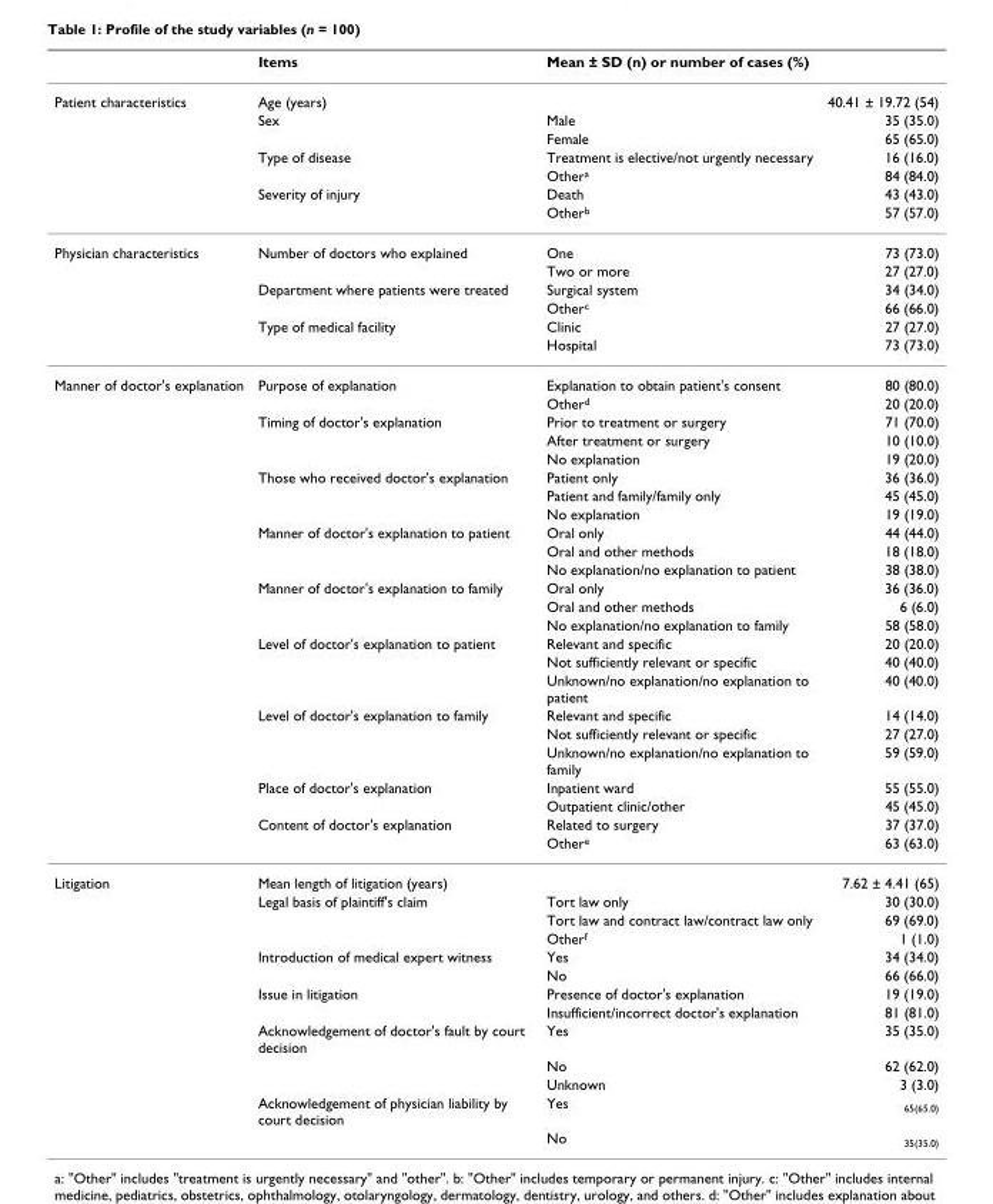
<table><thead><tr><td></td><td>Items</td><td>Mean ± SD (n) or number of cases (%)</td><td></td></tr></thead><tbody><tr><td rowspan="7">Patient characteristics</td><td>Age (years)</td><td></td><td>40.41 ± 19.72 (54)</td></tr><tr><td>Sex</td><td>Male</td><td>35 (35.0)</td></tr><tr><td></td><td>Female</td><td>65 (65.0)</td></tr><tr><td>Type of disease</td><td>Treatment is elective/not urgently necessary</td><td>16 (16.0)</td></tr><tr><td></td><td>Other<sup>a</sup></td><td>84 (84.0)</td></tr><tr><td>Severity of injury</td><td>Death</td><td>43 (43.0)</td></tr><tr><td></td><td>Other<sup>b</sup></td><td>57 (57.0)</td></tr><tr><td rowspan="6">Physician characteristics</td><td>Number of doctors who explained</td><td>One</td><td>73 (73.0)</td></tr><tr><td></td><td>Two or more</td><td>27 (27.0)</td></tr><tr><td>Department where patients were treated</td><td>Surgical system</td><td>34 (34.0)</td></tr><tr><td></td><td>Other<sup>c</sup></td><td>66 (66.0)</td></tr><tr><td>Type of medical facility</td><td>Clinic</td><td>27 (27.0)</td></tr><tr><td></td><td>Hospital</td><td>73 (73.0)</td></tr><tr><td rowspan="24">Manner of doctor&#x27;s explanation</td><td>Purpose of explanation</td><td>Explanation to obtain patient&#x27;s consent</td><td>80 (80.0)</td></tr><tr><td></td><td>Other<sup>d</sup></td><td>20 (20.0)</td></tr><tr><td>Timing of doctor&#x27;s explanation</td><td>Prior to treatment or surgery</td><td>71 (70.0)</td></tr><tr><td></td><td>After treatment or surgery</td><td>10 (10.0)</td></tr><tr><td></td><td>No explanation</td><td>19 (20.0)</td></tr><tr><td>Those who received doctor&#x27;s explanation</td><td>Patient only</td><td>36 (36.0)</td></tr><tr><td></td><td>Patient and family/family only</td><td>45 (45.0)</td></tr><tr><td></td><td>No explanation</td><td>19 (19.0)</td></tr><tr><td>Manner of doctor&#x27;s explanation to patient</td><td>Oral only</td><td>44 (44.0)</td></tr><tr><td></td><td>Oral and other methods</td><td>18 (18.0)</td></tr><tr><td></td><td>No explanation/no explanation to patient</td><td>38 (38.0)</td></tr><tr><td>Manner of doctor&#x27;s explanation to family</td><td>Oral only</td><td>36 (36.0)</td></tr><tr><td></td><td>Oral and other methods</td><td>6 (6.0)</td></tr><tr><td></td><td>No explanation/no explanation to family</td><td>58 (58.0)</td></tr><tr><td>Level of doctor&#x27;s explanation to patient</td><td>Relevant and specific</td><td>20 (20.0)</td></tr><tr><td></td><td>Not sufficiently relevant or specific</td><td>40 (40.0)</td></tr><tr><td></td><td>Unknown/no explanation/no explanation to patient</td><td>40 (40.0)</td></tr><tr><td>Level of doctor&#x27;s explanation to family</td><td>Relevant and specific</td><td>14 (14.0)</td></tr><tr><td></td><td>Not sufficiently relevant or specific</td><td>27 (27.0)</td></tr><tr><td></td><td>Unknown/no explanation/no explanation to family</td><td>59 (59.0)</td></tr><tr><td>Place of doctor&#x27;s explanation</td><td>Inpatient ward</td><td>55 (55.0)</td></tr><tr><td></td><td>Outpatient clinic/other</td><td>45 (45.0)</td></tr><tr><td>Content of doctor&#x27;s explanation</td><td>Related to surgery</td><td>37 (37.0)</td></tr><tr><td></td><td>Other<sup>e</sup></td><td>63 (63.0)</td></tr><tr><td rowspan="13">Litigation</td><td>Mean length of litigation (years)</td><td></td><td>7.62 ± 4.41 (65)</td></tr><tr><td>Legal basis of plaintiff&#x27;s claim</td><td>Tort law only</td><td>30 (30.0)</td></tr><tr><td></td><td>Tort law and contract law/contract law only</td><td>69 (69.0)</td></tr><tr><td></td><td>Other<sup>f</sup></td><td>1 (1.0)</td></tr><tr><td>Introduction of medical expert witness</td><td>Yes</td><td>34 (34.0)</td></tr><tr><td></td><td>No</td><td>66 (66.0)</td></tr><tr><td>Issue in litigation</td><td>Presence of doctor&#x27;s explanation</td><td>19 (19.0)</td></tr><tr><td></td><td>Insufficient/incorrect doctor&#x27;s explanation</td><td>81 (81.0)</td></tr><tr><td>Acknowledgement of doctor&#x27;s fault by court decision</td><td>Yes</td><td>35 (35.0)</td></tr><tr><td></td><td>No</td><td>62 (62.0)</td></tr><tr><td></td><td>Unknown</td><td>3 (3.0)</td></tr><tr><td>Acknowledgement of physician liability by court decision</td><td>Yes</td><td><sub>65(65.0)</sub></td></tr><tr><td></td><td>No</td><td><sub>35(35.0)</sub></td></tr></tbody></table>